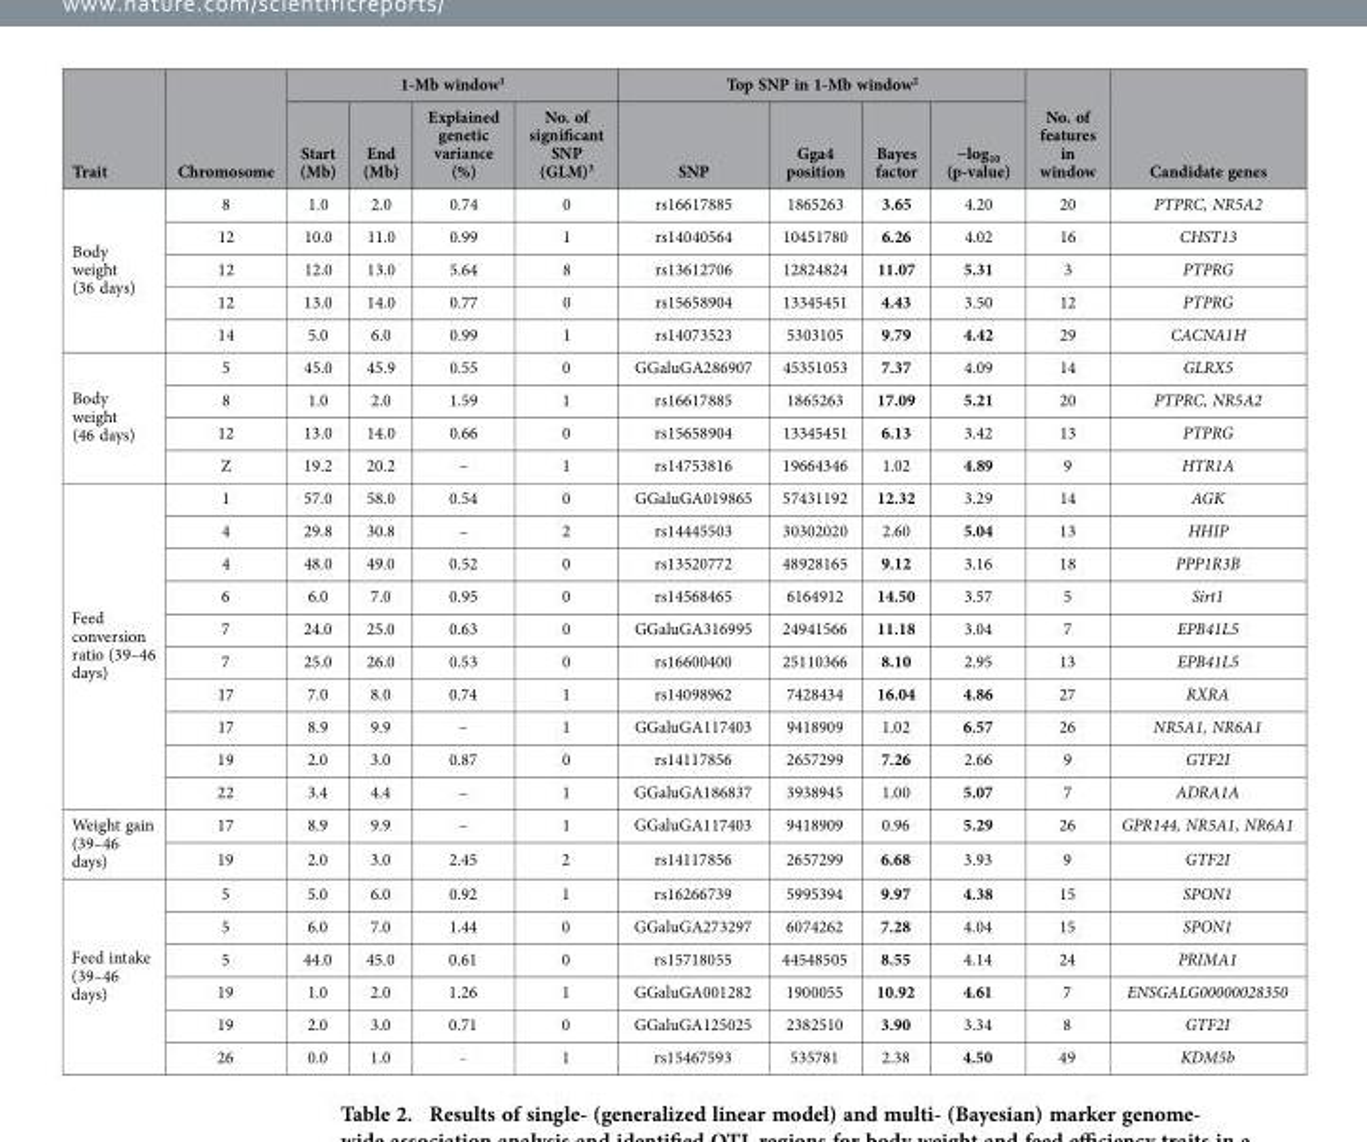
<table><thead><tr><td rowspan="2">Trait</td><td rowspan="2">Chromosome</td><td colspan="4">1-Mb window<sup>1</sup></td><td colspan="4">Top SNP in 1-Mb window<sup>2</sup></td><td rowspan="2">No. of features in window</td><td rowspan="2">Candidate genes</td></tr><tr><td>Start (Mb)</td><td>End (Mb)</td><td>Explained genetic variance (%)</td><td>No. of significant SNP (GLM)<sup>3</sup></td><td>SNP</td><td>Gga4 position</td><td>Bayes factor</td><td>−log<sub>10</sub> (p-value)</td></tr></thead><tbody><tr><td rowspan="5">Body weight (36 days)</td><td>8</td><td>1.0</td><td>2.0</td><td>0.74</td><td>0</td><td>rs16617885</td><td>1865263</td><td>3.65</td><td>4.20</td><td>20</td><td>PTPRC, NR5A2</td></tr><tr><td>12</td><td>10.0</td><td>11.0</td><td>0.99</td><td>1</td><td>rs14040564</td><td>10451780</td><td>6.26</td><td>4.02</td><td>16</td><td>CHST13</td></tr><tr><td>12</td><td>12.0</td><td>13.0</td><td>5.64</td><td>8</td><td>rs13612706</td><td>12824824</td><td>11.07</td><td>5.31</td><td>3</td><td>PTPRG</td></tr><tr><td>12</td><td>13.0</td><td>14.0</td><td>0.77</td><td>0</td><td>rs15658904</td><td>13345451</td><td>4.43</td><td>3.50</td><td>12</td><td>PTPRG</td></tr><tr><td>14</td><td>5.0</td><td>6.0</td><td>0.99</td><td>1</td><td>rs14073523</td><td>5303105</td><td>9.79</td><td>4.42</td><td>29</td><td>CACNA1H</td></tr><tr><td rowspan="4">Body weight (46 days)</td><td>5</td><td>45.0</td><td>45.9</td><td>0.55</td><td>0</td><td>GGaluGA286907</td><td>45351053</td><td>7.37</td><td>4.09</td><td>14</td><td>GLRX5</td></tr><tr><td>8</td><td>1.0</td><td>2.0</td><td>1.59</td><td>1</td><td>rs16617885</td><td>1865263</td><td>17.09</td><td>5.21</td><td>20</td><td>PTPRC, NR5A2</td></tr><tr><td>12</td><td>13.0</td><td>14.0</td><td>0.66</td><td>0</td><td>rs15658904</td><td>13345451</td><td>6.13</td><td>3.42</td><td>13</td><td>PTPRG</td></tr><tr><td>Z</td><td>19.2</td><td>20.2</td><td>–</td><td>1</td><td>rs14753816</td><td>19664346</td><td>1.02</td><td>4.89</td><td>9</td><td>HTR1A</td></tr><tr><td rowspan="10">Feed conversion ratio (39–46 days)</td><td>1</td><td>57.0</td><td>58.0</td><td>0.54</td><td>0</td><td>GGaluGA019865</td><td>57431192</td><td>12.32</td><td>3.29</td><td>14</td><td>AGK</td></tr><tr><td>4</td><td>29.8</td><td>30.8</td><td>–</td><td>2</td><td>rs14445503</td><td>30302020</td><td>2.60</td><td>5.04</td><td>13</td><td>HHIP</td></tr><tr><td>4</td><td>48.0</td><td>49.0</td><td>0.52</td><td>0</td><td>rs13520772</td><td>48928165</td><td>9.12</td><td>3.16</td><td>18</td><td>PPP1R3B</td></tr><tr><td>6</td><td>6.0</td><td>7.0</td><td>0.95</td><td>0</td><td>rs14568465</td><td>6164912</td><td>14.50</td><td>3.57</td><td>5</td><td>Sirt1</td></tr><tr><td>7</td><td>24.0</td><td>25.0</td><td>0.63</td><td>0</td><td>GGaluGA316995</td><td>24941566</td><td>11.18</td><td>3.04</td><td>7</td><td>EPB41L5</td></tr><tr><td>7</td><td>25.0</td><td>26.0</td><td>0.53</td><td>0</td><td>rs16600400</td><td>25110366</td><td>8.10</td><td>2.95</td><td>13</td><td>EPB41L5</td></tr><tr><td>17</td><td>7.0</td><td>8.0</td><td>0.74</td><td>1</td><td>rs14098962</td><td>7428434</td><td>16.04</td><td>4.86</td><td>27</td><td>RXRA</td></tr><tr><td>17</td><td>8.9</td><td>9.9</td><td>–</td><td>1</td><td>GGaluGA117403</td><td>9418909</td><td>1.02</td><td>6.57</td><td>26</td><td>NR5A1, NR6A1</td></tr><tr><td>19</td><td>2.0</td><td>3.0</td><td>0.87</td><td>0</td><td>rs14117856</td><td>2657299</td><td>7.26</td><td>2.66</td><td>9</td><td>GTF2I</td></tr><tr><td>22</td><td>3.4</td><td>4.4</td><td>–</td><td>1</td><td>GGaluGA186837</td><td>3938945</td><td>1.00</td><td>5.07</td><td>7</td><td>ADRA1A</td></tr><tr><td rowspan="2">Weight gain (39–46 days)</td><td>17</td><td>8.9</td><td>9.9</td><td>–</td><td>1</td><td>GGaluGA117403</td><td>9418909</td><td>0.96</td><td>5.29</td><td>26</td><td>GPR144, NR5A1, NR6A1</td></tr><tr><td>19</td><td>2.0</td><td>3.0</td><td>2.45</td><td>2</td><td>rs14117856</td><td>2657299</td><td>6.68</td><td>3.93</td><td>9</td><td>GTF2I</td></tr><tr><td rowspan="6">Feed intake (39–46 days)</td><td>5</td><td>5.0</td><td>6.0</td><td>0.92</td><td>1</td><td>rs16266739</td><td>5995394</td><td>9.97</td><td>4.38</td><td>15</td><td>SPON1</td></tr><tr><td>5</td><td>6.0</td><td>7.0</td><td>1.44</td><td>0</td><td>GGaluGA273297</td><td>6074262</td><td>7.28</td><td>4.04</td><td>15</td><td>SPON1</td></tr><tr><td>5</td><td>44.0</td><td>45.0</td><td>0.61</td><td>0</td><td>rs15718055</td><td>44548505</td><td>8.55</td><td>4.14</td><td>24</td><td>PRIMA1</td></tr><tr><td>19</td><td>1.0</td><td>2.0</td><td>1.26</td><td>1</td><td>GGaluGA001282</td><td>1900055</td><td>10.92</td><td>4.61</td><td>7</td><td>ENSGALG00000028350</td></tr><tr><td>19</td><td>2.0</td><td>3.0</td><td>0.71</td><td>0</td><td>GGaluGA125025</td><td>2382510</td><td>3.90</td><td>3.34</td><td>8</td><td>GTF2I</td></tr><tr><td>26</td><td>0.0</td><td>1.0</td><td>-</td><td>1</td><td>rs15467593</td><td>535781</td><td>2.38</td><td>4.50</td><td>49</td><td>KDM5b</td></tr></tbody></table>